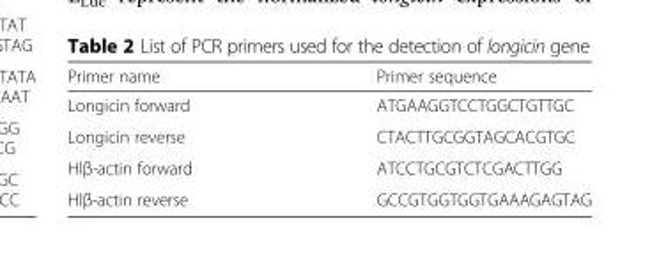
<table><thead><tr><td>Primer name</td><td>Primer sequence</td></tr></thead><tbody><tr><td>Longicin forward</td><td>ATGAAGGTCCTGGCTGTTGC</td></tr><tr><td>Longicin reverse</td><td>CTACTTGCGGTAGCACGTGC</td></tr><tr><td>Hlβ-actin forward</td><td>ATCCTGCGTCTCGACTTGG</td></tr><tr><td>Hlβ-actin reverse</td><td>GCCGTGGTGGTGAAAGAGTAG</td></tr></tbody></table>